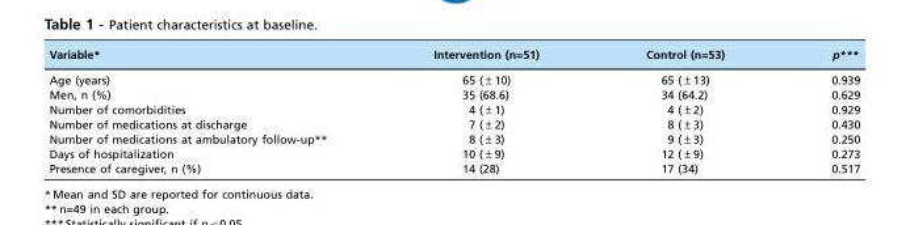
<table><thead><tr><td>Variable*</td><td>Intervention (n=51)</td><td>Control (n=53)</td><td>p***</td></tr></thead><tbody><tr><td>Age (years)</td><td>65 (±10)</td><td>65 (±13)</td><td>0.939</td></tr><tr><td>Men, n (%)</td><td>35 (68.6)</td><td>34 (64.2)</td><td>0.629</td></tr><tr><td>Number of comorbidities</td><td>4 (±1)</td><td>4 (±2)</td><td>0.929</td></tr><tr><td>Number of medications at discharge</td><td>7 (±2)</td><td>8 (±3)</td><td>0.430</td></tr><tr><td>Number of medications at ambulatory follow-up**</td><td>8 (±3)</td><td>9 (±3)</td><td>0.250</td></tr><tr><td>Days of hospitalization</td><td>10 (±9)</td><td>12 (±9)</td><td>0.273</td></tr><tr><td>Presence of caregiver, n (%)</td><td>14 (28)</td><td>17 (34)</td><td>0.517</td></tr></tbody></table>